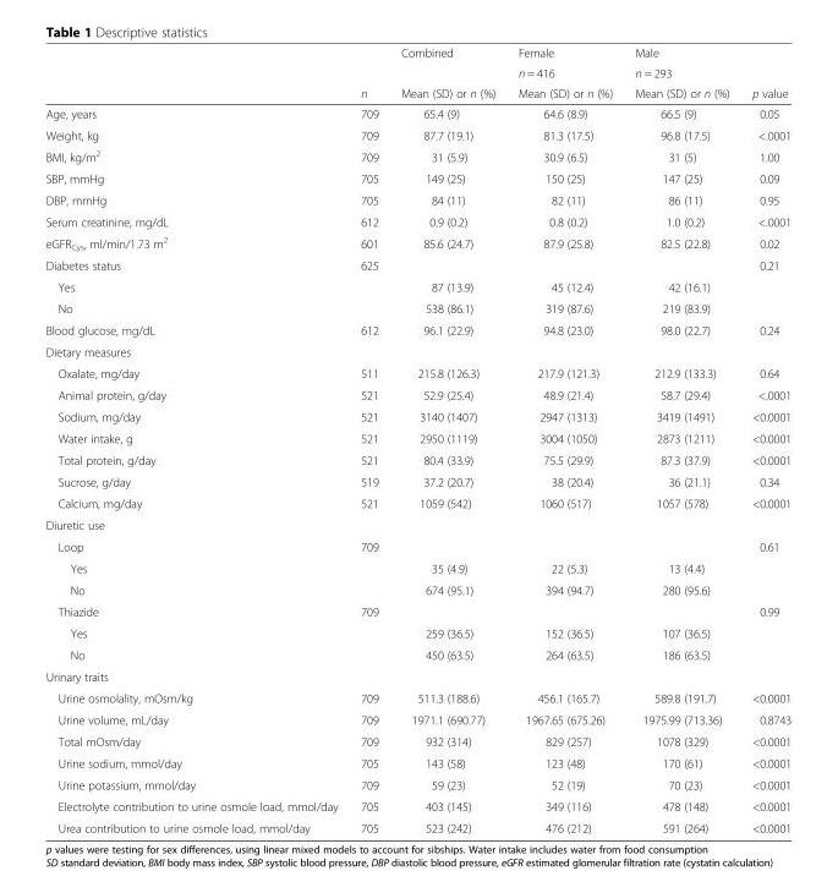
<table><thead><tr><td rowspan="3"></td><td rowspan="3">n</td><td rowspan="3">Combined Mean (SD) or n (%)</td><td rowspan="3">Female n = 416 Mean (SD) or n (%)</td><td rowspan="3">Male n = 293 Mean (SD) or n (%)</td><td rowspan="3">p value</td></tr><tr></tr><tr></tr></thead><tbody><tr><td>Age, years</td><td>709</td><td>65.4 (9)</td><td>64.6 (8.9)</td><td>66.5 (9)</td><td>0.05</td></tr><tr><td>Weight, kg</td><td>709</td><td>87.7 (19.1)</td><td>81.3 (17.5)</td><td>96.8 (17.5)</td><td>&lt;.0001</td></tr><tr><td>BMI, kg/m<sup>2</sup></td><td>709</td><td>31 (5.9)</td><td>30.9 (6.5)</td><td>31 (5)</td><td>1.00</td></tr><tr><td>SBP, mmHg</td><td>705</td><td>149 (25)</td><td>150 (25)</td><td>147 (25)</td><td>0.09</td></tr><tr><td>DBP, mmHg</td><td>705</td><td>84 (11)</td><td>82 (11)</td><td>86 (11)</td><td>0.95</td></tr><tr><td>Serum creatinine, mg/dL</td><td>612</td><td>0.9 (0.2)</td><td>0.8 (0.2)</td><td>1.0 (0.2)</td><td>&lt;.0001</td></tr><tr><td>eGFR<sub>Cys</sub>, ml/min/1.73 m<sup>2</sup></td><td>601</td><td>85.6 (24.7)</td><td>87.9 (25.8)</td><td>82.5 (22.8)</td><td>0.02</td></tr><tr><td>Diabetes status</td><td>625</td><td></td><td></td><td></td><td>0.21</td></tr><tr><td>Yes</td><td></td><td>87 (13.9)</td><td>45 (12.4)</td><td>42 (16.1)</td><td></td></tr><tr><td>No</td><td></td><td>538 (86.1)</td><td>319 (87.6)</td><td>219 (83.9)</td><td></td></tr><tr><td>Blood glucose, mg/dL</td><td>612</td><td>96.1 (22.9)</td><td>94.8 (23.0)</td><td>98.0 (22.7)</td><td>0.24</td></tr><tr><td colspan="6">Dietary measures</td></tr><tr><td>Oxalate, mg/day</td><td>511</td><td>215.8 (126.3)</td><td>217.9 (121.3)</td><td>212.9 (133.3)</td><td>0.64</td></tr><tr><td>Animal protein, g/day</td><td>521</td><td>52.9 (25.4)</td><td>48.9 (21.4)</td><td>58.7 (29.4)</td><td>&lt;.0001</td></tr><tr><td>Sodium, mg/day</td><td>521</td><td>3140 (1407)</td><td>2947 (1313)</td><td>3419 (1491)</td><td>&lt;0.0001</td></tr><tr><td>Water intake, g</td><td>521</td><td>2950 (1119)</td><td>3004 (1050)</td><td>2873 (1211)</td><td>&lt;0.0001</td></tr><tr><td>Total protein, g/day</td><td>521</td><td>80.4 (33.9)</td><td>75.5 (29.9)</td><td>87.3 (37.9)</td><td>&lt;0.0001</td></tr><tr><td>Sucrose, g/day</td><td>519</td><td>37.2 (20.7)</td><td>38 (20.4)</td><td>36 (21.1)</td><td>0.34</td></tr><tr><td>Calcium, mg/day</td><td>521</td><td>1059 (542)</td><td>1060 (517)</td><td>1057 (578)</td><td>&lt;0.0001</td></tr><tr><td colspan="6">Diuretic use</td></tr><tr><td>Loop</td><td>709</td><td></td><td></td><td></td><td>0.61</td></tr><tr><td>Yes</td><td></td><td>35 (4.9)</td><td>22 (5.3)</td><td>13 (4.4)</td><td></td></tr><tr><td>No</td><td></td><td>674 (95.1)</td><td>394 (94.7)</td><td>280 (95.6)</td><td></td></tr><tr><td>Thiazide</td><td>709</td><td></td><td></td><td></td><td>0.99</td></tr><tr><td>Yes</td><td></td><td>259 (36.5)</td><td>152 (36.5)</td><td>107 (36.5)</td><td></td></tr><tr><td>No</td><td></td><td>450 (63.5)</td><td>264 (63.5)</td><td>186 (63.5)</td><td></td></tr><tr><td colspan="6">Urinary traits</td></tr><tr><td>Urine osmolality, mOsm/kg</td><td>709</td><td>511.3 (188.6)</td><td>456.1 (165.7)</td><td>589.8 (191.7)</td><td>&lt;0.0001</td></tr><tr><td>Urine volume, mL/day</td><td>709</td><td>1971.1 (690.77)</td><td>1967.65 (675.26)</td><td>1975.99 (713.36)</td><td>0.8743</td></tr><tr><td>Total mOsm/day</td><td>709</td><td>932 (314)</td><td>829 (257)</td><td>1078 (329)</td><td>&lt;0.0001</td></tr><tr><td>Urine sodium, mmol/day</td><td>705</td><td>143 (58)</td><td>123 (48)</td><td>170 (61)</td><td>&lt;0.0001</td></tr><tr><td>Urine potassium, mmol/day</td><td>709</td><td>59 (23)</td><td>52 (19)</td><td>70 (23)</td><td>&lt;0.0001</td></tr><tr><td>Electrolyte contribution to urine osmole load, mmol/day</td><td>705</td><td>403 (145)</td><td>349 (116)</td><td>478 (148)</td><td>&lt;0.0001</td></tr><tr><td>Urea contribution to urine osmole load, mmol/day</td><td>705</td><td>523 (242)</td><td>476 (212)</td><td>591 (264)</td><td>&lt;0.0001</td></tr></tbody></table>